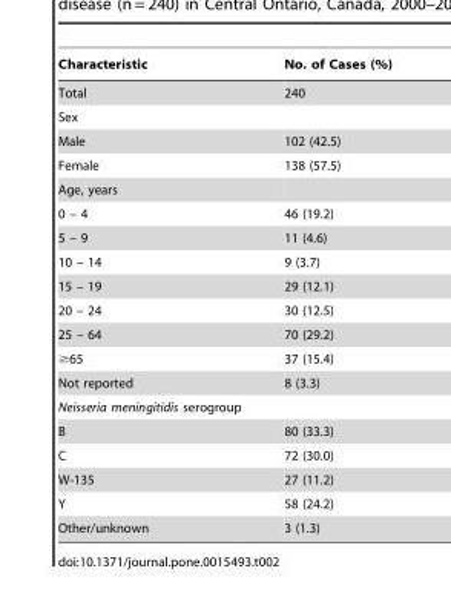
<table><thead><tr><td>Characteristic</td><td>No. of Cases (%)</td></tr></thead><tbody><tr><td>Total</td><td>240</td></tr><tr><td colspan="2">Sex</td></tr><tr><td>Male</td><td>102 (42.5)</td></tr><tr><td>Female</td><td>138 (57.5)</td></tr><tr><td colspan="2">Age, years</td></tr><tr><td>0 – 4</td><td>46 (19.2)</td></tr><tr><td>5 – 9</td><td>11 (4.6)</td></tr><tr><td>10 – 14</td><td>9 (3.7)</td></tr><tr><td>15 – 19</td><td>29 (12.1)</td></tr><tr><td>20 – 24</td><td>30 (12.5)</td></tr><tr><td>25 – 64</td><td>70 (29.2)</td></tr><tr><td>≥65</td><td>37 (15.4)</td></tr><tr><td>Not reported</td><td>8 (3.3)</td></tr><tr><td colspan="2">Neisseria meningitidis serogroup</td></tr><tr><td>B</td><td>80 (33.3)</td></tr><tr><td>C</td><td>72 (30.0)</td></tr><tr><td>W-135</td><td>27 (11.2)</td></tr><tr><td>Y</td><td>58 (24.2)</td></tr><tr><td>Other/unknown</td><td>3 (1.3)</td></tr></tbody></table>